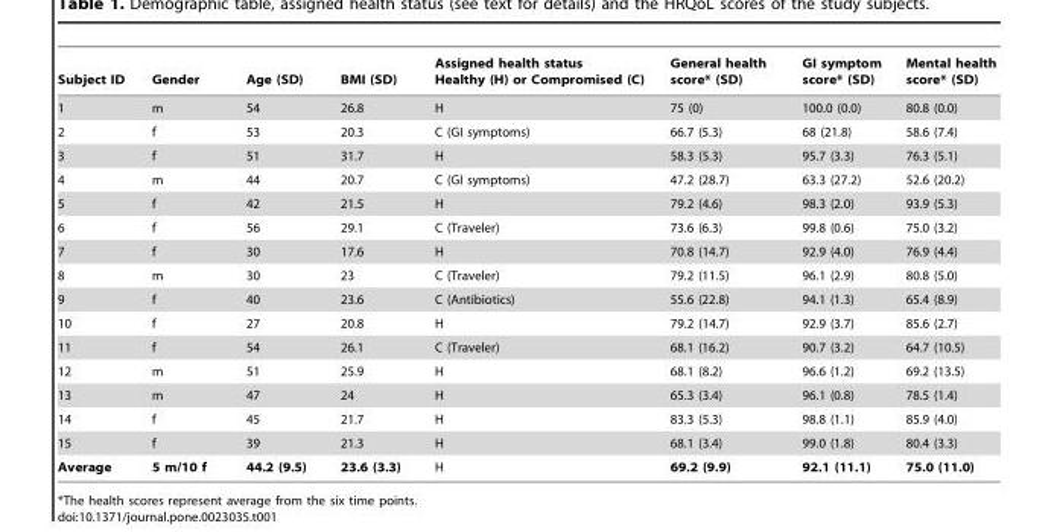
<table><thead><tr><td>Subject ID</td><td>Gender</td><td>Age (SD)</td><td>BMI (SD)</td><td>Assigned health status Healthy (H) or Compromised (C)</td><td>General health score* (SD)</td><td>GI symptom score* (SD)</td><td>Mental health score* (SD)</td></tr></thead><tbody><tr><td>1</td><td>m</td><td>54</td><td>26.8</td><td>H</td><td>75 (0)</td><td>100.0 (0.0)</td><td>80.8 (0.0)</td></tr><tr><td>2</td><td>f</td><td>53</td><td>20.3</td><td>C (GI symptoms)</td><td>66.7 (5.3)</td><td>68 (21.8)</td><td>58.6 (7.4)</td></tr><tr><td>3</td><td>f</td><td>51</td><td>31.7</td><td>H</td><td>58.3 (5.3)</td><td>95.7 (3.3)</td><td>76.3 (5.1)</td></tr><tr><td>4</td><td>m</td><td>44</td><td>20.7</td><td>C (GI symptoms)</td><td>47.2 (28.7)</td><td>63.3 (27.2)</td><td>52.6 (20.2)</td></tr><tr><td>5</td><td>f</td><td>42</td><td>21.5</td><td>H</td><td>79.2 (4.6)</td><td>98.3 (2.0)</td><td>93.9 (5.3)</td></tr><tr><td>6</td><td>f</td><td>56</td><td>29.1</td><td>C (Traveler)</td><td>73.6 (6.3)</td><td>99.8 (0.6)</td><td>75.0 (3.2)</td></tr><tr><td>7</td><td>f</td><td>30</td><td>17.6</td><td>H</td><td>70.8 (14.7)</td><td>92.9 (4.0)</td><td>76.9 (4.4)</td></tr><tr><td>8</td><td>m</td><td>30</td><td>23</td><td>C (Traveler)</td><td>79.2 (11.5)</td><td>96.1 (2.9)</td><td>80.8 (5.0)</td></tr><tr><td>9</td><td>f</td><td>40</td><td>23.6</td><td>C (Antibiotics)</td><td>55.6 (22.8)</td><td>94.1 (1.3)</td><td>65.4 (8.9)</td></tr><tr><td>10</td><td>f</td><td>27</td><td>20.8</td><td>H</td><td>79.2 (14.7)</td><td>92.9 (3.7)</td><td>85.6 (2.7)</td></tr><tr><td>11</td><td>f</td><td>54</td><td>26.1</td><td>C (Traveler)</td><td>68.1 (16.2)</td><td>90.7 (3.2)</td><td>64.7 (10.5)</td></tr><tr><td>12</td><td>m</td><td>51</td><td>25.9</td><td>H</td><td>68.1 (8.2)</td><td>96.6 (1.2)</td><td>69.2 (13.5)</td></tr><tr><td>13</td><td>m</td><td>47</td><td>24</td><td>H</td><td>65.3 (3.4)</td><td>96.1 (0.8)</td><td>78.5 (1.4)</td></tr><tr><td>14</td><td>f</td><td>45</td><td>21.7</td><td>H</td><td>83.3 (5.3)</td><td>98.8 (1.1)</td><td>85.9 (4.0)</td></tr><tr><td>15</td><td>f</td><td>39</td><td>21.3</td><td>H</td><td>68.1 (3.4)</td><td>99.0 (1.8)</td><td>80.4 (3.3)</td></tr><tr><td>Average</td><td>5 m/10 f</td><td>44.2 (9.5)</td><td>23.6 (3.3)</td><td>H</td><td>69.2 (9.9)</td><td>92.1 (11.1)</td><td>75.0 (11.0)</td></tr></tbody></table>